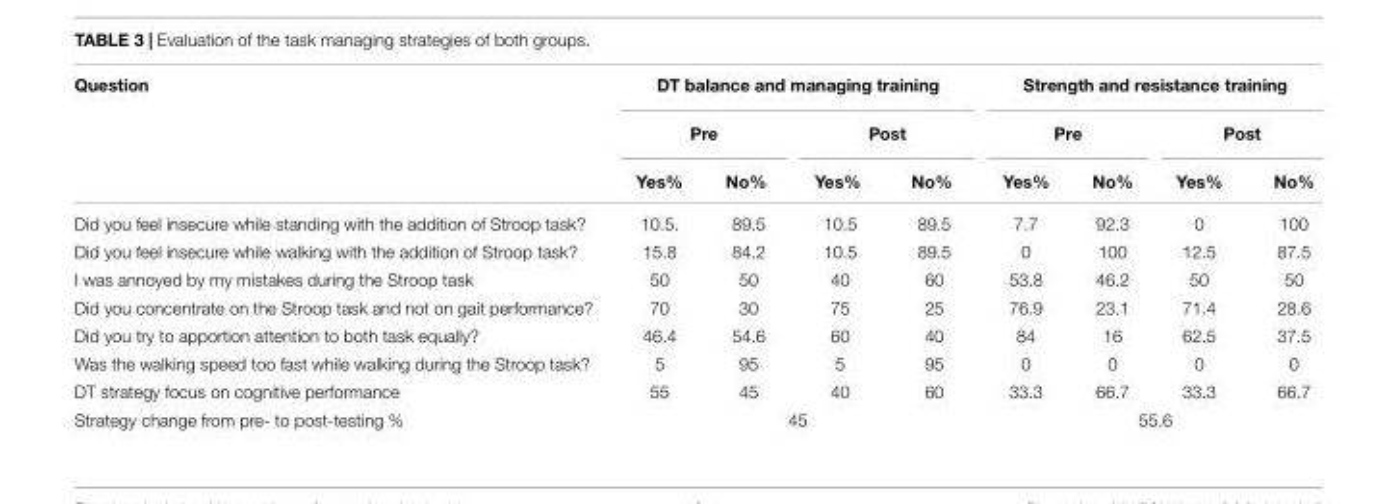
<table><thead><tr><td rowspan="3">Question</td><td colspan="4">DT balance and managing training</td><td colspan="4">Strength and resistance training</td></tr><tr><td colspan="2">Pre</td><td colspan="2">Post</td><td colspan="2">Pre</td><td colspan="2">Post</td></tr><tr><td>Yes%</td><td>No%</td><td>Yes%</td><td>No%</td><td>Yes%</td><td>No%</td><td>Yes%</td><td>No%</td></tr></thead><tbody><tr><td>Did you feel insecure while standing with the addition of Stroop task?</td><td>10.5.</td><td>89.5</td><td>10.5</td><td>89.5</td><td>7.7</td><td>92.3</td><td>0</td><td>100</td></tr><tr><td>Did you feel insecure while walking with the addition of Stroop task?</td><td>15.8</td><td>84.2</td><td>10.5</td><td>89.5</td><td>0</td><td>100</td><td>12.5</td><td>87.5</td></tr><tr><td>I was annoyed by my mistakes during the Stroop task</td><td>50</td><td>50</td><td>40</td><td>60</td><td>53.8</td><td>46.2</td><td>50</td><td>50</td></tr><tr><td>Did you concentrate on the Stroop task and not on gait performance?</td><td>70</td><td>30</td><td>75</td><td>25</td><td>76.9</td><td>23.1</td><td>71.4</td><td>28.6</td></tr><tr><td>Did you try to apportion attention to both task equally?</td><td>46.4</td><td>54.6</td><td>60</td><td>40</td><td>84</td><td>16</td><td>62.5</td><td>37.5</td></tr><tr><td>Was the walking speed too fast while walking during the Stroop task?</td><td>5</td><td>95</td><td>5</td><td>95</td><td>0</td><td>0</td><td>0</td><td>0</td></tr><tr><td>DT strategy focus on cognitive performance</td><td>55</td><td>45</td><td>40</td><td>60</td><td>33.3</td><td>66.7</td><td>33.3</td><td>66.7</td></tr><tr><td>Strategy change from pre- to post-testing %</td><td colspan="4">45</td><td colspan="4">55.6</td></tr></tbody></table>